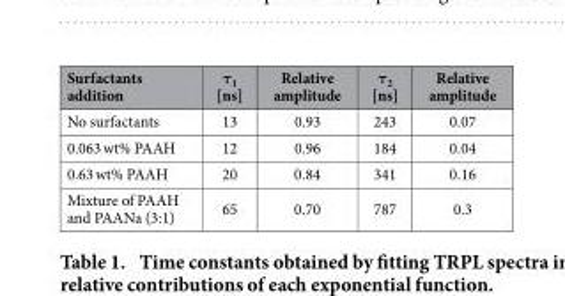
<table><thead><tr><td>Surfactants addition</td><td>τ<sub>1</sub> [ns]</td><td>Relative amplitude</td><td>τ<sub>2</sub> [ns]</td><td>Relative amplitude</td></tr></thead><tbody><tr><td>No surfactants</td><td>13</td><td>0.93</td><td>243</td><td>0.07</td></tr><tr><td>0.063 wt% PAAH</td><td>12</td><td>0.96</td><td>184</td><td>0.04</td></tr><tr><td>0.63 wt% PAAH</td><td>20</td><td>0.84</td><td>341</td><td>0.16</td></tr><tr><td>Mixture of PAAH and PAANa (3:1)</td><td>65</td><td>0.70</td><td>787</td><td>0.3</td></tr></tbody></table>